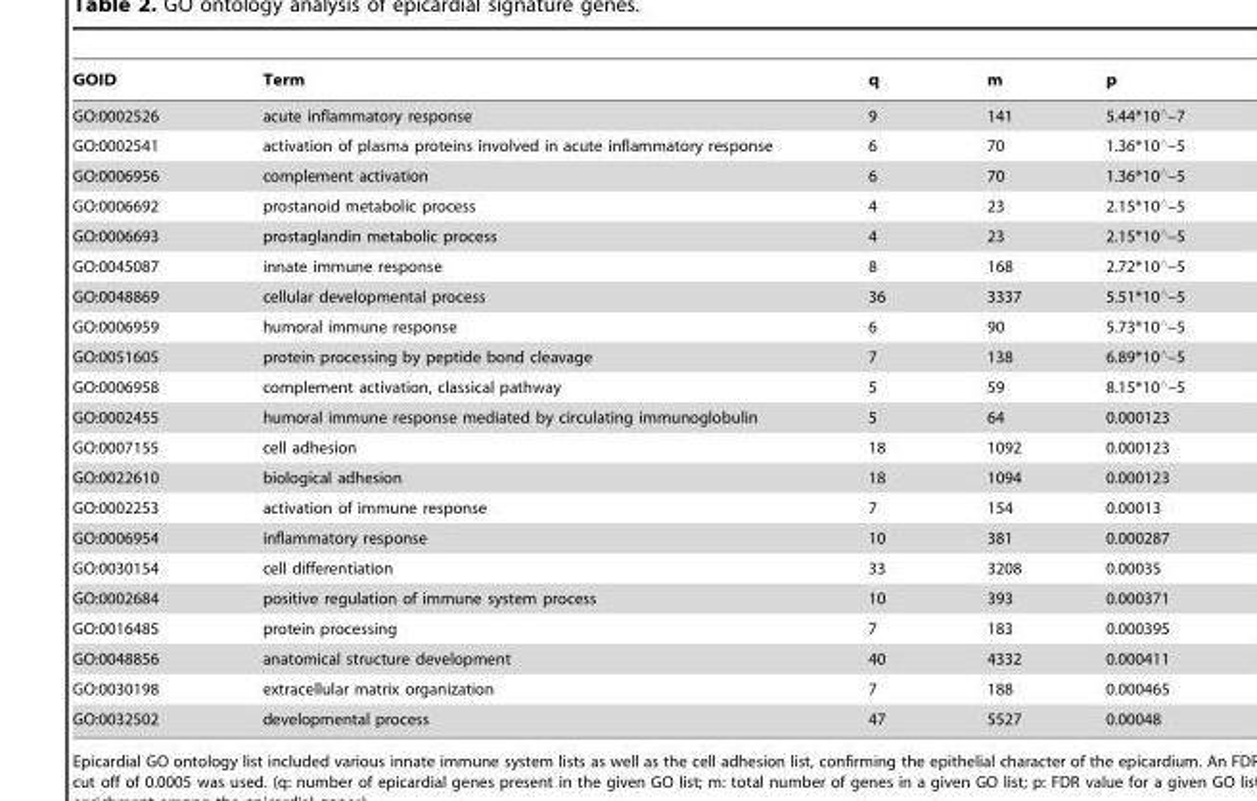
<table><thead><tr><td>GOID</td><td>Term</td><td>q</td><td>m</td><td>p</td></tr></thead><tbody><tr><td>GO:0002526</td><td>acute inflammatory response</td><td>9</td><td>141</td><td>5.44*10‘–7</td></tr><tr><td>GO:0002541</td><td>activation of plasma proteins involved in acute inflammatory response</td><td>6</td><td>70</td><td>1.36*10‘–5</td></tr><tr><td>GO:0006956</td><td>complement activation</td><td>6</td><td>70</td><td>1.36*10‘–5</td></tr><tr><td>GO:0006692</td><td>prostanoid metabolic process</td><td>4</td><td>23</td><td>2.15*10‘–5</td></tr><tr><td>GO:0006693</td><td>prostaglandin metabolic process</td><td>4</td><td>23</td><td>2.15*10‘–5</td></tr><tr><td>GO:0045087</td><td>innate immune response</td><td>8</td><td>168</td><td>2.72*10‘–5</td></tr><tr><td>GO:0048869</td><td>cellular developmental process</td><td>36</td><td>3337</td><td>5.51*10‘–5</td></tr><tr><td>GO:0006959</td><td>humoral immune response</td><td>6</td><td>90</td><td>5.73*10‘–5</td></tr><tr><td>GO:0051605</td><td>protein processing by peptide bond cleavage</td><td>7</td><td>138</td><td>6.89*10‘–5</td></tr><tr><td>GO:0006958</td><td>complement activation, classical pathway</td><td>5</td><td>59</td><td>8.15*10‘–5</td></tr><tr><td>GO:0002455</td><td>humoral immune response mediated by circulating immunoglobulin</td><td>5</td><td>64</td><td>0.000123</td></tr><tr><td>GO:0007155</td><td>cell adhesion</td><td>18</td><td>1092</td><td>0.000123</td></tr><tr><td>GO:0022610</td><td>biological adhesion</td><td>18</td><td>1094</td><td>0.000123</td></tr><tr><td>GO:0002253</td><td>activation of immune response</td><td>7</td><td>154</td><td>0.00013</td></tr><tr><td>GO:0006954</td><td>inflammatory response</td><td>10</td><td>381</td><td>0.000287</td></tr><tr><td>GO:0030154</td><td>cell differentiation</td><td>33</td><td>3208</td><td>0.00035</td></tr><tr><td>GO:0002684</td><td>positive regulation of immune system process</td><td>10</td><td>393</td><td>0.000371</td></tr><tr><td>GO:0016485</td><td>protein processing</td><td>7</td><td>183</td><td>0.000395</td></tr><tr><td>GO:0048856</td><td>anatomical structure development</td><td>40</td><td>4332</td><td>0.000411</td></tr><tr><td>GO:0030198</td><td>extracellular matrix organization</td><td>7</td><td>188</td><td>0.000465</td></tr><tr><td>GO:0032502</td><td>developmental process</td><td>47</td><td>5527</td><td>0.00048</td></tr></tbody></table>